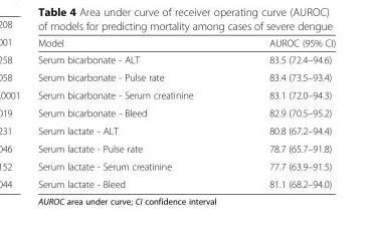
<table><thead><tr><td>Model</td><td>AUROC (95% CI)</td></tr></thead><tbody><tr><td>Serum bicarbonate - ALT</td><td>83.5 (72.4–94.6)</td></tr><tr><td>Serum bicarbonate - Pulse rate</td><td>83.4 (73.5–93.4)</td></tr><tr><td>Serum bicarbonate - Serum creatinine</td><td>83.1 (72.0–94.3)</td></tr><tr><td>Serum bicarbonate - Bleed</td><td>82.9 (70.5–95.2)</td></tr><tr><td>Serum lactate - ALT</td><td>80.8 (67.2–94.4)</td></tr><tr><td>Serum lactate - Pulse rate</td><td>78.7 (65.7–91.8)</td></tr><tr><td>Serum lactate - Serum creatinine</td><td>77.7 (63.9–91.5)</td></tr><tr><td>Serum lactate - Bleed</td><td>81.1 (68.2–94.0)</td></tr></tbody></table>